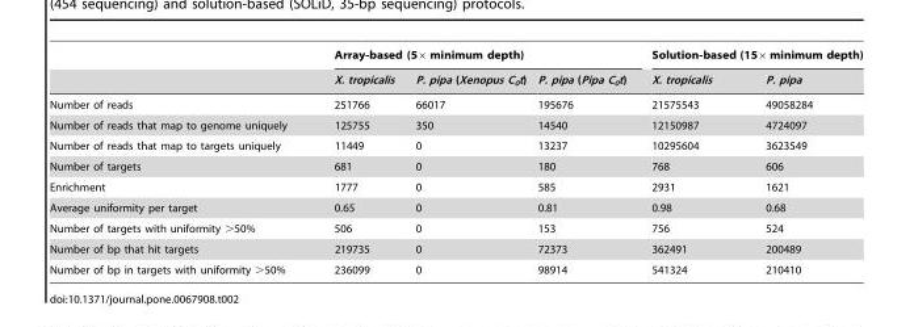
<table><thead><tr><td rowspan="2"></td><td colspan="3">Array-based (5× minimum depth)</td><td colspan="2">Solution-based (15×minimum depth)</td></tr><tr><td>X. tropicalis</td><td>P. pipa (Xenopus C<sub>0</sub>t)</td><td>P. pipa (Pipa C<sub>0</sub>t)</td><td>X. tropicalis</td><td>P. pipa</td></tr></thead><tbody><tr><td>Number of reads</td><td>251766</td><td>66017</td><td>195676</td><td>21575543</td><td>49058284</td></tr><tr><td>Number of reads that map to genome uniquely</td><td>125755</td><td>350</td><td>14540</td><td>12150987</td><td>4724097</td></tr><tr><td>Number of reads that map to targets uniquely</td><td>11449</td><td>0</td><td>13237</td><td>10295604</td><td>3623549</td></tr><tr><td>Number of targets</td><td>681</td><td>0</td><td>180</td><td>768</td><td>606</td></tr><tr><td>Enrichment</td><td>1777</td><td>0</td><td>585</td><td>2931</td><td>1621</td></tr><tr><td>Average uniformity per target</td><td>0.65</td><td>0</td><td>0.81</td><td>0.98</td><td>0.68</td></tr><tr><td>Number of targets with uniformity &gt;50%</td><td>506</td><td>0</td><td>153</td><td>756</td><td>524</td></tr><tr><td>Number of bp that hit targets</td><td>219735</td><td>0</td><td>72373</td><td>362491</td><td>200489</td></tr><tr><td>Number of bp in targets with uniformity &gt;50%</td><td>236099</td><td>0</td><td>98914</td><td>541324</td><td>210410</td></tr></tbody></table>